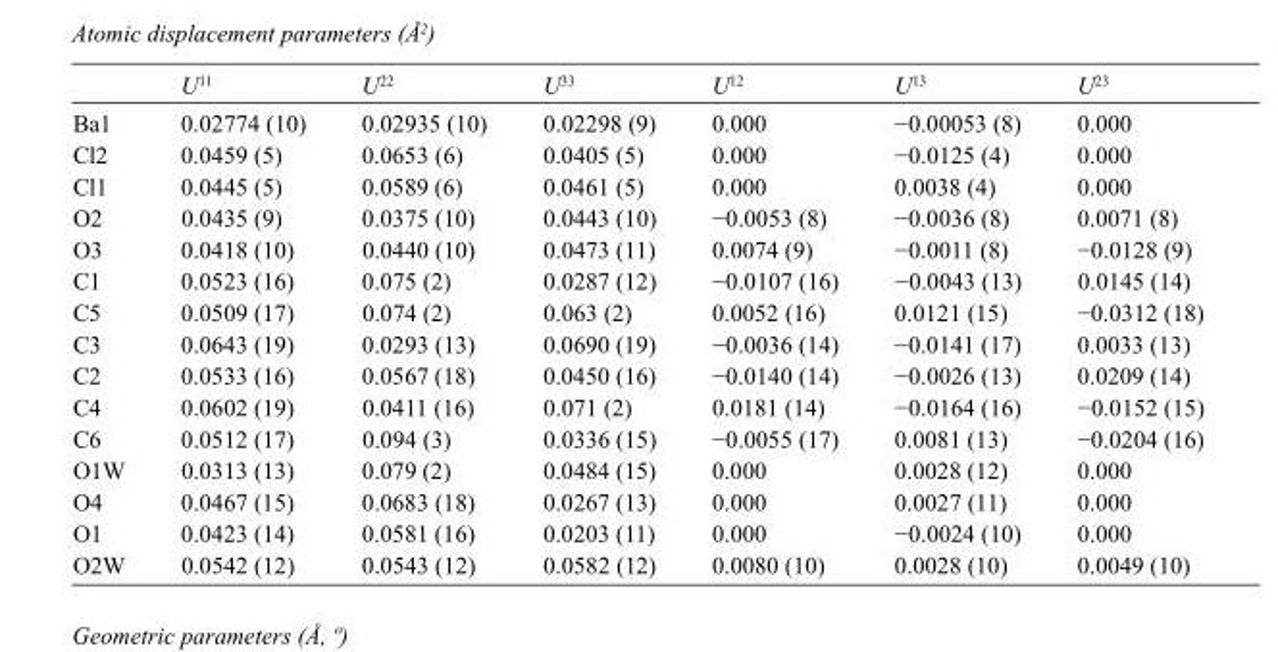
<table><thead><tr><td></td><td>U<sup>11</sup></td><td>U<sup>22</sup></td><td>U<sup>33</sup></td><td>U<sup>12</sup></td><td>U<sup>13</sup></td><td>U<sup>23</sup></td></tr></thead><tbody><tr><td>Ba1</td><td>0.02774 (10)</td><td>0.02935 (10)</td><td>0.02298 (9)</td><td>0.000</td><td>−0.00053 (8)</td><td>0.000</td></tr><tr><td>Cl2</td><td>0.0459 (5)</td><td>0.0653 (6)</td><td>0.0405 (5)</td><td>0.000</td><td>−0.0125 (4)</td><td>0.000</td></tr><tr><td>Cl1</td><td>0.0445 (5)</td><td>0.0589 (6)</td><td>0.0461 (5)</td><td>0.000</td><td>0.0038 (4)</td><td>0.000</td></tr><tr><td>O2</td><td>0.0435 (9)</td><td>0.0375 (10)</td><td>0.0443 (10)</td><td>−0.0053 (8)</td><td>−0.0036 (8)</td><td>0.0071 (8)</td></tr><tr><td>O3</td><td>0.0418 (10)</td><td>0.0440 (10)</td><td>0.0473 (11)</td><td>0.0074 (9)</td><td>−0.0011 (8)</td><td>−0.0128 (9)</td></tr><tr><td>C1</td><td>0.0523 (16)</td><td>0.075 (2)</td><td>0.0287 (12)</td><td>−0.0107 (16)</td><td>−0.0043 (13)</td><td>0.0145 (14)</td></tr><tr><td>C5</td><td>0.0509 (17)</td><td>0.074 (2)</td><td>0.063 (2)</td><td>0.0052 (16)</td><td>0.0121 (15)</td><td>−0.0312 (18)</td></tr><tr><td>C3</td><td>0.0643 (19)</td><td>0.0293 (13)</td><td>0.0690 (19)</td><td>−0.0036 (14)</td><td>−0.0141 (17)</td><td>0.0033 (13)</td></tr><tr><td>C2</td><td>0.0533 (16)</td><td>0.0567 (18)</td><td>0.0450 (16)</td><td>−0.0140 (14)</td><td>−0.0026 (13)</td><td>0.0209 (14)</td></tr><tr><td>C4</td><td>0.0602 (19)</td><td>0.0411 (16)</td><td>0.071 (2)</td><td>0.0181 (14)</td><td>−0.0164 (16)</td><td>−0.0152 (15)</td></tr><tr><td>C6</td><td>0.0512 (17)</td><td>0.094 (3)</td><td>0.0336 (15)</td><td>−0.0055 (17)</td><td>0.0081 (13)</td><td>−0.0204 (16)</td></tr><tr><td>O1W</td><td>0.0313 (13)</td><td>0.079 (2)</td><td>0.0484 (15)</td><td>0.000</td><td>0.0028 (12)</td><td>0.000</td></tr><tr><td>O4</td><td>0.0467 (15)</td><td>0.0683 (18)</td><td>0.0267 (13)</td><td>0.000</td><td>0.0027 (11)</td><td>0.000</td></tr><tr><td>O1</td><td>0.0423 (14)</td><td>0.0581 (16)</td><td>0.0203 (11)</td><td>0.000</td><td>−0.0024 (10)</td><td>0.000</td></tr><tr><td>O2W</td><td>0.0542 (12)</td><td>0.0543 (12)</td><td>0.0582 (12)</td><td>0.0080 (10)</td><td>0.0028 (10)</td><td>0.0049 (10)</td></tr></tbody></table>